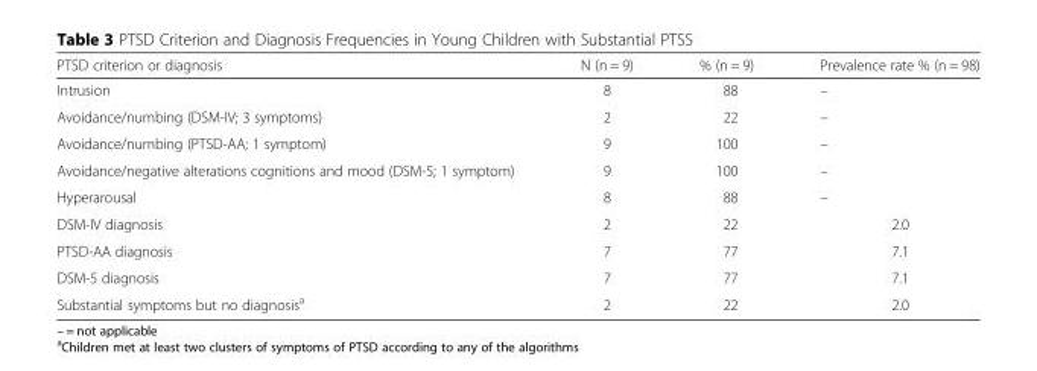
<table><thead><tr><td>PTSD criterion or diagnosis</td><td>N (n = 9)</td><td>% (n = 9)</td><td>Prevalence rate % (n = 98)</td></tr></thead><tbody><tr><td>Intrusion</td><td>8</td><td>88</td><td>–</td></tr><tr><td>Avoidance/numbing (DSM-IV; 3 symptoms)</td><td>2</td><td>22</td><td>–</td></tr><tr><td>Avoidance/numbing (PTSD-AA; 1 symptom)</td><td>9</td><td>100</td><td>–</td></tr><tr><td>Avoidance/negative alterations cognitions and mood (DSM-5; 1 symptom)</td><td>9</td><td>100</td><td>–</td></tr><tr><td>Hyperarousal</td><td>8</td><td>88</td><td>–</td></tr><tr><td>DSM-IV diagnosis</td><td>2</td><td>22</td><td>2.0</td></tr><tr><td>PTSD-AA diagnosis</td><td>7</td><td>77</td><td>7.1</td></tr><tr><td>DSM-5 diagnosis</td><td>7</td><td>77</td><td>7.1</td></tr><tr><td>Substantial symptoms but no diagnosis<sup>a</sup></td><td>2</td><td>22</td><td>2.0</td></tr></tbody></table>